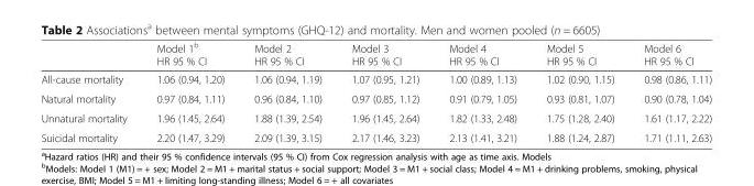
<table><thead><tr><td></td><td>Model 1<sup>b</sup> HR 95 % CI</td><td>Model 2 HR 95 % CI</td><td>Model 3 HR 95 % CI</td><td>Model 4 HR 95 % CI</td><td>Model 5 HR 95 % CI</td><td>Model 6 HR 95 % CI</td></tr></thead><tbody><tr><td>All-cause mortality</td><td>1.06 (0.94, 1.20)</td><td>1.06 (0.94, 1.19)</td><td>1.07 (0.95, 1.21)</td><td>1.00 (0.89, 1.13)</td><td>1.02 (0.90, 1.15)</td><td>0.98 (0.86, 1.11)</td></tr><tr><td>Natural mortality</td><td>0.97 (0.84, 1.11)</td><td>0.96 (0.84, 1.10)</td><td>0.97 (0.85, 1.12)</td><td>0.91 (0.79, 1.05)</td><td>0.93 (0.81, 1.07)</td><td>0.90 (0.78, 1.04)</td></tr><tr><td>Unnatural mortality</td><td>1.96 (1.45, 2.64)</td><td>1.88 (1.39, 2.54)</td><td>1.96 (1.45, 2.64)</td><td>1.82 (1.33, 2.48)</td><td>1.75 (1.28, 2.40)</td><td>1.61 (1.17, 2.22)</td></tr><tr><td>Suicidal mortality</td><td>2.20 (1.47, 3.29)</td><td>2.09 (1.39, 3.15)</td><td>2.17 (1.46, 3.23)</td><td>2.13 (1.41, 3.21)</td><td>1.88 (1.24, 2.87)</td><td>1.71 (1.11, 2.63)</td></tr></tbody></table>